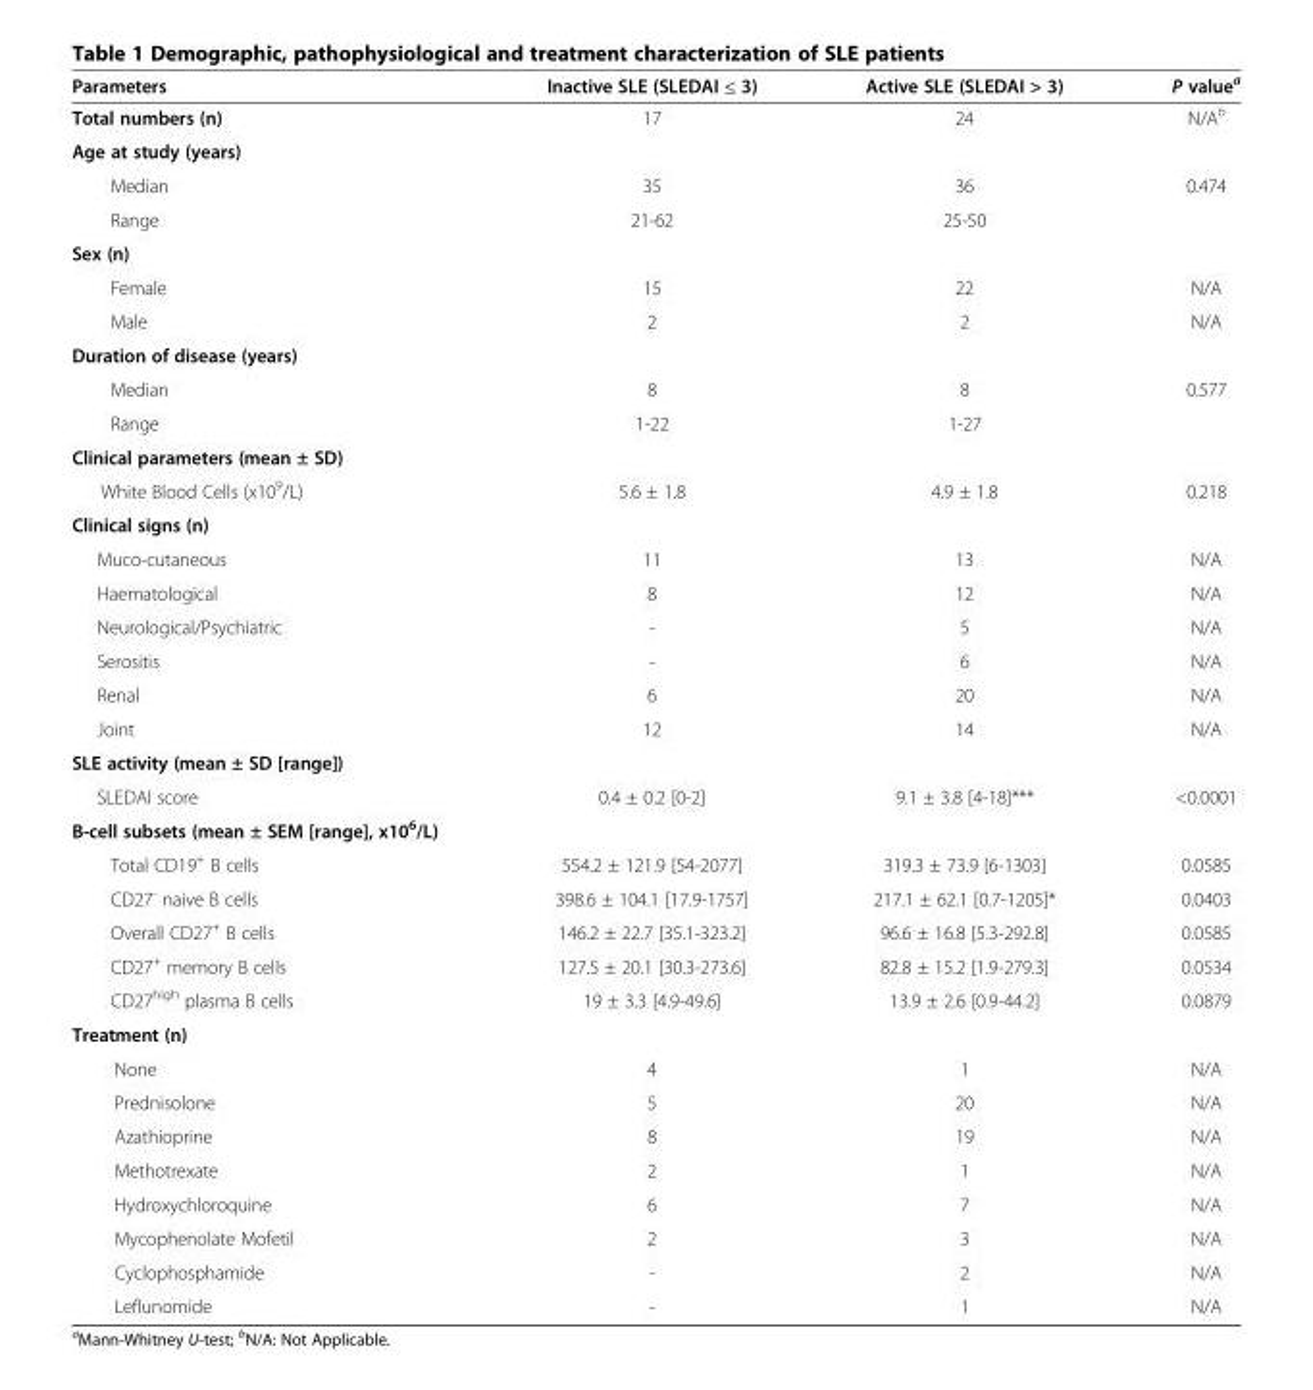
<table><thead><tr><td>Parameters</td><td>Inactive SLE (SLEDAI ≤ 3)</td><td>Active SLE (SLEDAI &gt; 3)</td><td>P value<sup>a</sup></td></tr></thead><tbody><tr><td>Total numbers (n)</td><td>17</td><td>24</td><td>N/A<sup>b</sup></td></tr><tr><td colspan="4">Age at study (years)</td></tr><tr><td>Median</td><td>35</td><td>36</td><td>0.474</td></tr><tr><td>Range</td><td>21-62</td><td>25-50</td><td></td></tr><tr><td colspan="4">Sex (n)</td></tr><tr><td>Female</td><td>15</td><td>22</td><td>N/A</td></tr><tr><td>Male</td><td>2</td><td>2</td><td>N/A</td></tr><tr><td colspan="4">Duration of disease (years)</td></tr><tr><td>Median</td><td>8</td><td>8</td><td>0.577</td></tr><tr><td>Range</td><td>1-22</td><td>1-27</td><td></td></tr><tr><td colspan="4">Clinical parameters (mean ± SD)</td></tr><tr><td>White Blood Cells (x10<sup>9</sup>/L)</td><td>5.6 ± 1.8</td><td>4.9 ± 1.8</td><td>0.218</td></tr><tr><td colspan="4">Clinical signs (n)</td></tr><tr><td>Muco-cutaneous</td><td>11</td><td>13</td><td>N/A</td></tr><tr><td>Haematological</td><td>8</td><td>12</td><td>N/A</td></tr><tr><td>Neurological/Psychiatric</td><td>-</td><td>5</td><td>N/A</td></tr><tr><td>Serositis</td><td>-</td><td>6</td><td>N/A</td></tr><tr><td>Renal</td><td>6</td><td>20</td><td>N/A</td></tr><tr><td>Joint</td><td>12</td><td>14</td><td>N/A</td></tr><tr><td colspan="4">SLE activity (mean ± SD [range])</td></tr><tr><td>SLEDAI score</td><td>0.4 ± 0.2 [0-2]</td><td>9.1 ± 3.8 [4-18]***</td><td>&lt;0.0001</td></tr><tr><td colspan="4">B-cell subsets (mean ± SEM [range], x10<sup>6</sup>/L)</td></tr><tr><td>Total CD19<sup>+</sup> B cells</td><td>554.2 ± 121.9 [54-2077]</td><td>319.3 ± 73.9 [6-1303]</td><td>0.0585</td></tr><tr><td>CD27<sup>-</sup> naive B cells</td><td>398.6 ± 104.1 [17.9-1757]</td><td>217.1 ± 62.1 [0.7-1205]*</td><td>0.0403</td></tr><tr><td>Overall CD27<sup>+</sup> B cells</td><td>146.2 ± 22.7 [35.1-323.2]</td><td>96.6 ± 16.8 [5.3-292.8]</td><td>0.0585</td></tr><tr><td>CD27<sup>+</sup> memory B cells</td><td>127.5 ± 20.1 [30.3-273.6]</td><td>82.8 ± 15.2 [1.9-279.3]</td><td>0.0534</td></tr><tr><td>CD27<sup>high</sup> plasma B cells</td><td>19 ± 3.3 [4.9-49.6]</td><td>13.9 ± 2.6 [0.9-44.2]</td><td>0.0879</td></tr><tr><td colspan="4">Treatment (n)</td></tr><tr><td>None</td><td>4</td><td>1</td><td>N/A</td></tr><tr><td>Prednisolone</td><td>5</td><td>20</td><td>N/A</td></tr><tr><td>Azathioprine</td><td>8</td><td>19</td><td>N/A</td></tr><tr><td>Methotrexate</td><td>2</td><td>1</td><td>N/A</td></tr><tr><td>Hydroxychloroquine</td><td>6</td><td>7</td><td>N/A</td></tr><tr><td>Mycophenolate Mofetil</td><td>2</td><td>3</td><td>N/A</td></tr><tr><td>Cyclophosphamide</td><td>-</td><td>2</td><td>N/A</td></tr><tr><td>Leflunomide</td><td>-</td><td>1</td><td>N/A</td></tr></tbody></table>